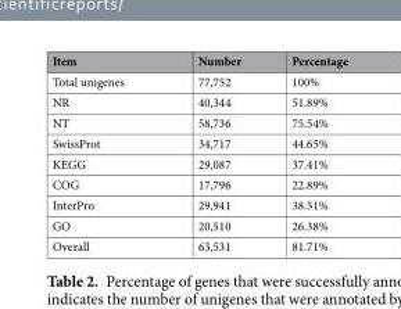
<table><thead><tr><td>Item</td><td>Number</td><td>Percentage</td></tr></thead><tbody><tr><td>Total unigenes</td><td>77,752</td><td>100%</td></tr><tr><td>NR</td><td>40,344</td><td>51.89%</td></tr><tr><td>NT</td><td>58,736</td><td>75.54%</td></tr><tr><td>SwissProt</td><td>34,717</td><td>44.65%</td></tr><tr><td>KEGG</td><td>29,087</td><td>37.41%</td></tr><tr><td>COG</td><td>17,796</td><td>22.89%</td></tr><tr><td>InterPro</td><td>29,941</td><td>38.51%</td></tr><tr><td>GO</td><td>20,510</td><td>26.38%</td></tr><tr><td>Overall</td><td>63,531</td><td>81.71%</td></tr></tbody></table>